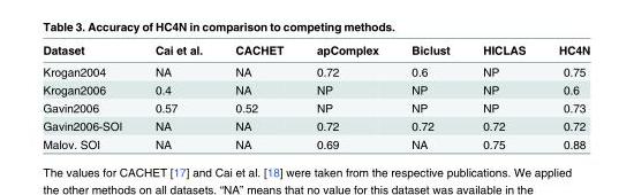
<table><thead><tr><td>Dataset</td><td>Cai et al.</td><td>CACHET</td><td>apComplex</td><td>Biclust</td><td>HICLAS</td><td>HC4N</td></tr></thead><tbody><tr><td>Krogan2004</td><td>NA</td><td>NA</td><td>0.72</td><td>0.6</td><td>NP</td><td>0.75</td></tr><tr><td>Krogan2006</td><td>0.4</td><td>NA</td><td>NP</td><td>NP</td><td>NP</td><td>0.6</td></tr><tr><td>Gavin2006</td><td>0.57</td><td>0.52</td><td>NP</td><td>NP</td><td>NP</td><td>0.73</td></tr><tr><td>Gavin2006-SOI</td><td>NA</td><td>NA</td><td>0.72</td><td>0.72</td><td>0.72</td><td>0.72</td></tr><tr><td>Malov. SOI</td><td>NA</td><td>NA</td><td>0.69</td><td>NA</td><td>0.75</td><td>0.88</td></tr></tbody></table>